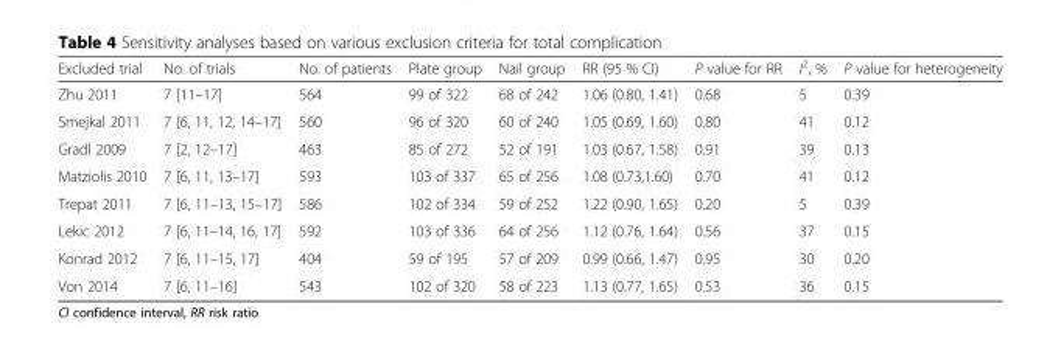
<table><thead><tr><td>Excluded trial</td><td>No. of trials</td><td>No. of patients</td><td>Plate group</td><td>Nail group</td><td>RR (95 % CI)</td><td>P value for RR</td><td>I<sup>2</sup>, %</td><td>P value for heterogeneity</td></tr></thead><tbody><tr><td>Zhu 2011</td><td>7 [11–17]</td><td>564</td><td>99 of 322</td><td>68 of 242</td><td>1.06 (0.80, 1.41)</td><td>0.68</td><td>5</td><td>0.39</td></tr><tr><td>Smejkal 2011</td><td>7 [6, 11, 12, 14–17]</td><td>560</td><td>96 of 320</td><td>60 of 240</td><td>1.05 (0.69, 1.60)</td><td>0.80</td><td>41</td><td>0.12</td></tr><tr><td>Gradl 2009</td><td>7 [2, 12–17]</td><td>463</td><td>85 of 272</td><td>52 of 191</td><td>1.03 (0.67, 1.58)</td><td>0.91</td><td>39</td><td>0.13</td></tr><tr><td>Matziolis 2010</td><td>7 [6, 11, 13–17]</td><td>593</td><td>103 of 337</td><td>65 of 256</td><td>1.08 (0.73,1.60)</td><td>0.70</td><td>41</td><td>0.12</td></tr><tr><td>Trepat 2011</td><td>7 [6, 11–13, 15–17]</td><td>586</td><td>102 of 334</td><td>59 of 252</td><td>1.22 (0.90, 1.65)</td><td>0.20</td><td>5</td><td>0.39</td></tr><tr><td>Lekic 2012</td><td>7 [6, 11–14, 16, 17]</td><td>592</td><td>103 of 336</td><td>64 of 256</td><td>1.12 (0.76, 1.64)</td><td>0.56</td><td>37</td><td>0.15</td></tr><tr><td>Konrad 2012</td><td>7 [6, 11–15, 17]</td><td>404</td><td>59 of 195</td><td>57 of 209</td><td>0.99 (0.66, 1.47)</td><td>0.95</td><td>30</td><td>0.20</td></tr><tr><td>Von 2014</td><td>7 [6, 11–16]</td><td>543</td><td>102 of 320</td><td>58 of 223</td><td>1.13 (0.77, 1.65)</td><td>0.53</td><td>36</td><td>0.15</td></tr></tbody></table>